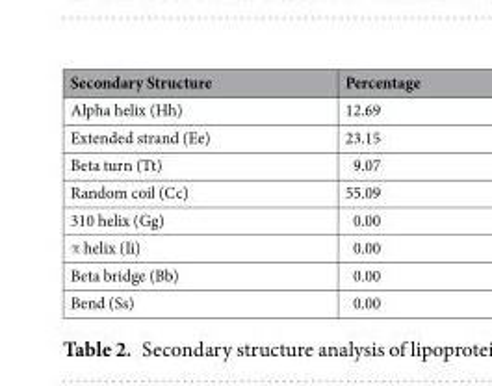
<table><thead><tr><td>Secondary Structure</td><td>Percentage</td></tr></thead><tbody><tr><td>Alpha helix (Hh)</td><td>12.69</td></tr><tr><td>Extended strand (Ee)</td><td>23.15</td></tr><tr><td>Beta turn (Tt)</td><td>9.07</td></tr><tr><td>Random coil (Cc)</td><td>55.09</td></tr><tr><td>310 helix (Gg)</td><td>0.00</td></tr><tr><td>π helix (Ii)</td><td>0.00</td></tr><tr><td>Beta bridge (Bb)</td><td>0.00</td></tr><tr><td>Bend (Ss)</td><td>0.00</td></tr></tbody></table>